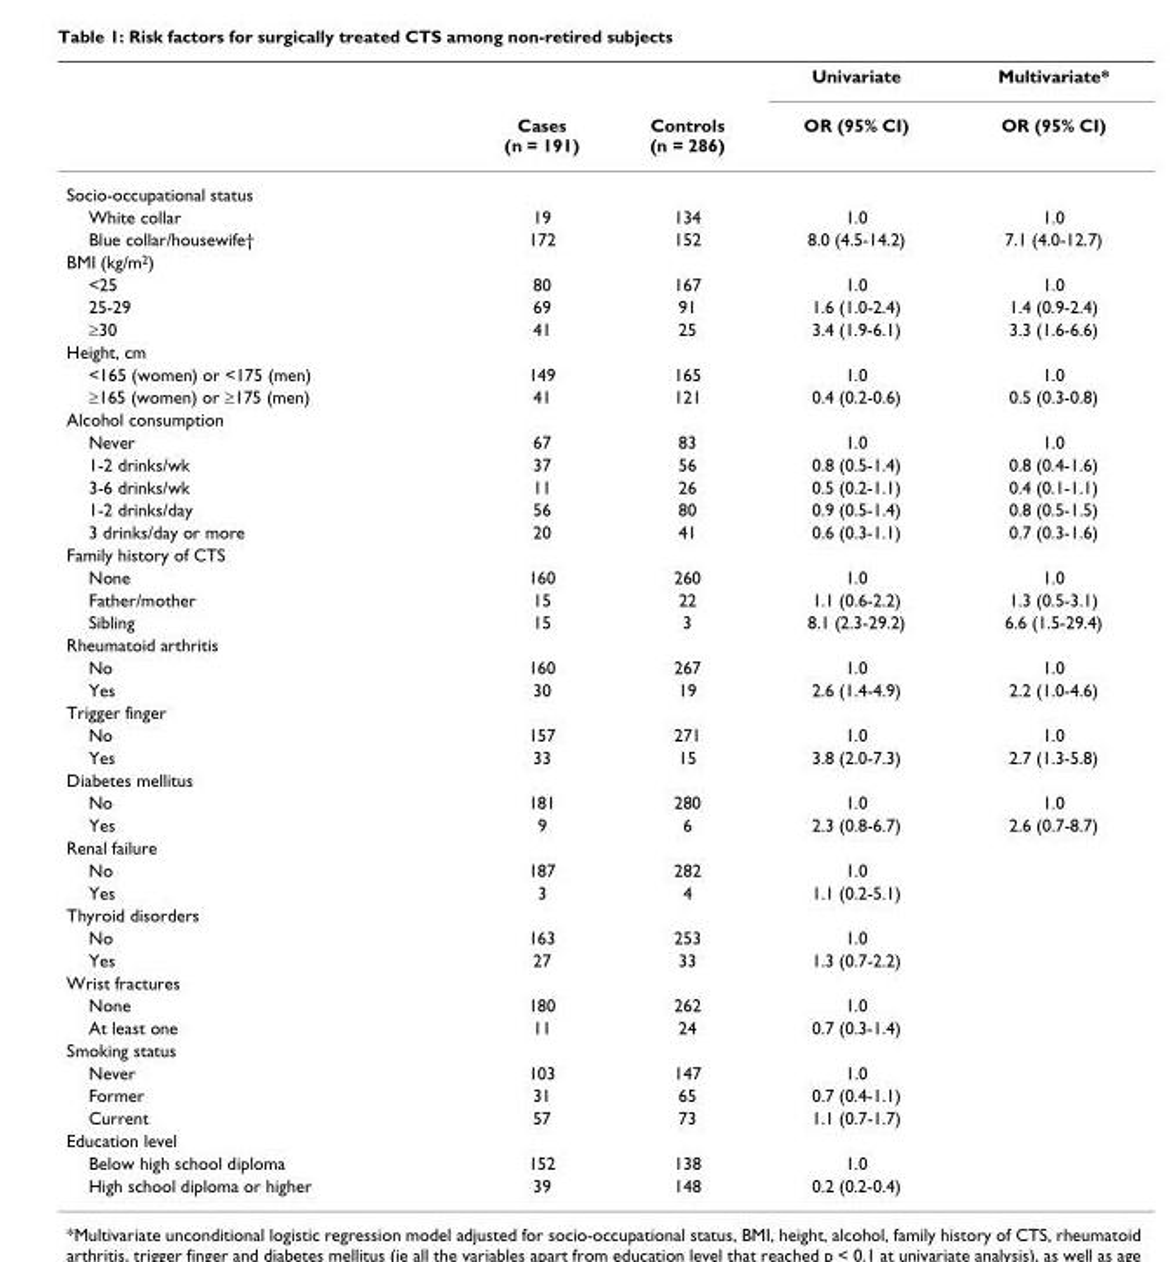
<table><thead><tr><td rowspan="2"></td><td rowspan="2">Cases (n = 191)</td><td rowspan="2">Controls (n = 286)</td><td rowspan="2">Univariate OR (95% CI)</td><td rowspan="2">Multivariate* OR (95% CI)</td></tr><tr></tr></thead><tbody><tr><td colspan="5">Socio-occupational status</td></tr><tr><td>White collar</td><td>19</td><td>134</td><td>1.0</td><td>1.0</td></tr><tr><td>Blue collar/housewife†</td><td>172</td><td>152</td><td>8.0 (4.5-14.2)</td><td>7.1 (4.0-12.7)</td></tr><tr><td colspan="5">BMI (kg/m<sup>2</sup>)</td></tr><tr><td>&lt;25</td><td>80</td><td>167</td><td>1.0</td><td>1.0</td></tr><tr><td>25-29</td><td>69</td><td>91</td><td>1.6 (1.0-2.4)</td><td>1.4 (0.9-2.4)</td></tr><tr><td>≥30</td><td>41</td><td>25</td><td>3.4 (1.9-6.1)</td><td>3.3 (1.6-6.6)</td></tr><tr><td colspan="5">Height, cm</td></tr><tr><td>&lt;165 (women) or &lt;175 (men)</td><td>149</td><td>165</td><td>1.0</td><td>1.0</td></tr><tr><td>≥165 (women) or ≥175 (men)</td><td>41</td><td>121</td><td>0.4 (0.2-0.6)</td><td>0.5 (0.3-0.8)</td></tr><tr><td colspan="5">Alcohol consumption</td></tr><tr><td>Never</td><td>67</td><td>83</td><td>1.0</td><td>1.0</td></tr><tr><td>1-2 drinks/wk</td><td>37</td><td>56</td><td>0.8 (0.5-1.4)</td><td>0.8 (0.4-1.6)</td></tr><tr><td>3-6 drinks/wk</td><td>11</td><td>26</td><td>0.5 (0.2-1.1)</td><td>0.4 (0.1-1.1)</td></tr><tr><td>1-2 drinks/day</td><td>56</td><td>80</td><td>0.9 (0.5-1.4)</td><td>0.8 (0.5-1.5)</td></tr><tr><td>3 drinks/day or more</td><td>20</td><td>41</td><td>0.6 (0.3-1.1)</td><td>0.7 (0.3-1.6)</td></tr><tr><td colspan="5">Family history of CTS</td></tr><tr><td>None</td><td>160</td><td>260</td><td>1.0</td><td>1.0</td></tr><tr><td>Father/mother</td><td>15</td><td>22</td><td>1.1 (0.6-2.2)</td><td>1.3 (0.5-3.1)</td></tr><tr><td>Sibling</td><td>15</td><td>3</td><td>8.1 (2.3-29.2)</td><td>6.6 (1.5-29.4)</td></tr><tr><td colspan="5">Rheumatoid arthritis</td></tr><tr><td>No</td><td>160</td><td>267</td><td>1.0</td><td>1.0</td></tr><tr><td>Yes</td><td>30</td><td>19</td><td>2.6 (1.4-4.9)</td><td>2.2 (1.0-4.6)</td></tr><tr><td colspan="5">Trigger finger</td></tr><tr><td>No</td><td>157</td><td>271</td><td>1.0</td><td>1.0</td></tr><tr><td>Yes</td><td>33</td><td>15</td><td>3.8 (2.0-7.3)</td><td>2.7 (1.3-5.8)</td></tr><tr><td colspan="5">Diabetes mellitus</td></tr><tr><td>No</td><td>181</td><td>280</td><td>1.0</td><td>1.0</td></tr><tr><td>Yes</td><td>9</td><td>6</td><td>2.3 (0.8-6.7)</td><td>2.6 (0.7-8.7)</td></tr><tr><td colspan="5">Renal failure</td></tr><tr><td>No</td><td>187</td><td>282</td><td>1.0</td><td></td></tr><tr><td>Yes</td><td>3</td><td>4</td><td>1.1 (0.2-5.1)</td><td></td></tr><tr><td colspan="5">Thyroid disorders</td></tr><tr><td>No</td><td>163</td><td>253</td><td>1.0</td><td></td></tr><tr><td>Yes</td><td>27</td><td>33</td><td>1.3 (0.7-2.2)</td><td></td></tr><tr><td colspan="5">Wrist fractures</td></tr><tr><td>None</td><td>180</td><td>262</td><td>1.0</td><td></td></tr><tr><td>At least one</td><td>11</td><td>24</td><td>0.7 (0.3-1.4)</td><td></td></tr><tr><td colspan="5">Smoking status</td></tr><tr><td>Never</td><td>103</td><td>147</td><td>1.0</td><td></td></tr><tr><td>Former</td><td>31</td><td>65</td><td>0.7 (0.4-1.1)</td><td></td></tr><tr><td>Current</td><td>57</td><td>73</td><td>1.1 (0.7-1.7)</td><td></td></tr><tr><td colspan="5">Education level</td></tr><tr><td>Below high school diploma</td><td>152</td><td>138</td><td>1.0</td><td></td></tr><tr><td>High school diploma or higher</td><td>39</td><td>148</td><td>0.2 (0.2-0.4)</td><td></td></tr></tbody></table>